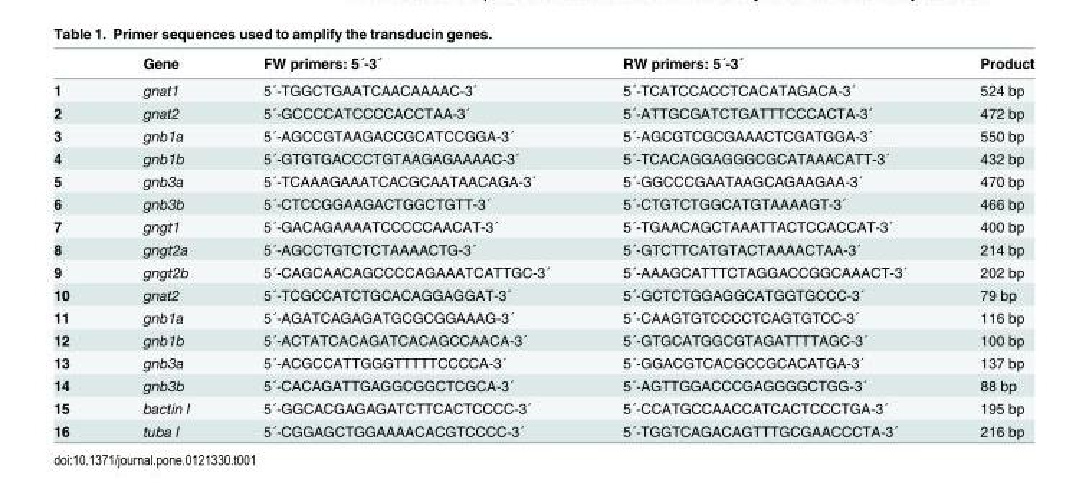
<table><thead><tr><td></td><td>Gene</td><td>FW primers: 5´-3´</td><td>RW primers: 5´-3´</td><td>Product</td></tr></thead><tbody><tr><td>1</td><td>gnat1</td><td>5´-TGGCTGAATCAACAAAAC-3´</td><td>5´-TCATCCACCTCACATAGACA-3´</td><td>524 bp</td></tr><tr><td>2</td><td>gnat2</td><td>5´-GCCCCATCCCCACCTAA-3´</td><td>5´-ATTGCGATCTGATTTCCCACTA-3´</td><td>472 bp</td></tr><tr><td>3</td><td>gnb1a</td><td>5´-AGCCGTAAGACCGCATCCGGA-3´</td><td>5´-AGCGTCGCGAAACTCGATGGA-3´</td><td>550 bp</td></tr><tr><td>4</td><td>gnb1b</td><td>5´-GTGTGACCCTGTAAGAGAAAAC-3´</td><td>5´-TCACAGGAGGGCGCATAAACATT-3´</td><td>432 bp</td></tr><tr><td>5</td><td>gnb3a</td><td>5´-TCAAAGAAATCACGCAATAACAGA-3´</td><td>5´-GGCCCGAATAAGCAGAAGAA-3´</td><td>470 bp</td></tr><tr><td>6</td><td>gnb3b</td><td>5´-CTCCGGAAGACTGGCTGTT-3´</td><td>5´-CTGTCTGGCATGTAAAAGT-3´</td><td>466 bp</td></tr><tr><td>7</td><td>gngt1</td><td>5´-GACAGAAAATCCCCCAACAT-3´</td><td>5´-TGAACAGCTAAATTACTCCACCAT-3´</td><td>400 bp</td></tr><tr><td>8</td><td>gngt2a</td><td>5´-AGCCTGTCTCTAAAACTG-3´</td><td>5´-GTCTTCATGTACTAAAACTAA-3´</td><td>214 bp</td></tr><tr><td>9</td><td>gngt2b</td><td>5´-CAGCAACAGCCCCAGAAATCATTGC-3´</td><td>5´-AAAGCATTTCTAGGACCGGCAAACT-3´</td><td>202 bp</td></tr><tr><td>10</td><td>gnat2</td><td>5´-TCGCCATCTGCACAGGAGGAT-3´</td><td>5´-GCTCTGGAGGCATGGTGCCC-3´</td><td>79 bp</td></tr><tr><td>11</td><td>gnb1a</td><td>5´-AGATCAGAGATGCGCGGAAAG-3´</td><td>5´-CAAGTGTCCCCTCAGTGTCC-3´</td><td>116 bp</td></tr><tr><td>12</td><td>gnb1b</td><td>5´-ACTATCACAGATCACAGCCAACA-3´</td><td>5´-GTGCATGGCGTAGATTTTAGC-3´</td><td>100 bp</td></tr><tr><td>13</td><td>gnb3a</td><td>5´-ACGCCATTGGGTTTTTCCCCA-3´</td><td>5´-GGACGTCACGCCGCACATGA-3´</td><td>137 bp</td></tr><tr><td>14</td><td>gnb3b</td><td>5´-CACAGATTGAGGCGGCTCGCA-3´</td><td>5´-AGTTGGACCCGAGGGGCTGG-3´</td><td>88 bp</td></tr><tr><td>15</td><td>bactin I</td><td>5´-GGCACGAGAGATCTTCACTCCCC-3´</td><td>5´-CCATGCCAACCATCACTCCCTGA-3´</td><td>195 bp</td></tr><tr><td>16</td><td>tuba I</td><td>5´-CGGAGCTGGAAAACACGTCCCC-3´</td><td>5´-TGGTCAGACAGTTTGCGAACCCTA-3´</td><td>216 bp</td></tr></tbody></table>